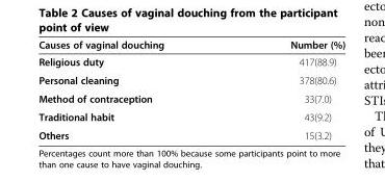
<table><thead><tr><td>Causes of vaginal douching</td><td>Number (%)</td></tr></thead><tbody><tr><td>Religious duty</td><td>417(88.9)</td></tr><tr><td>Personal cleaning</td><td>378(80.6)</td></tr><tr><td>Method of contraception</td><td>33(7.0)</td></tr><tr><td>Traditional habit</td><td>43(9.2)</td></tr><tr><td>Others</td><td>15(3.2)</td></tr></tbody></table>